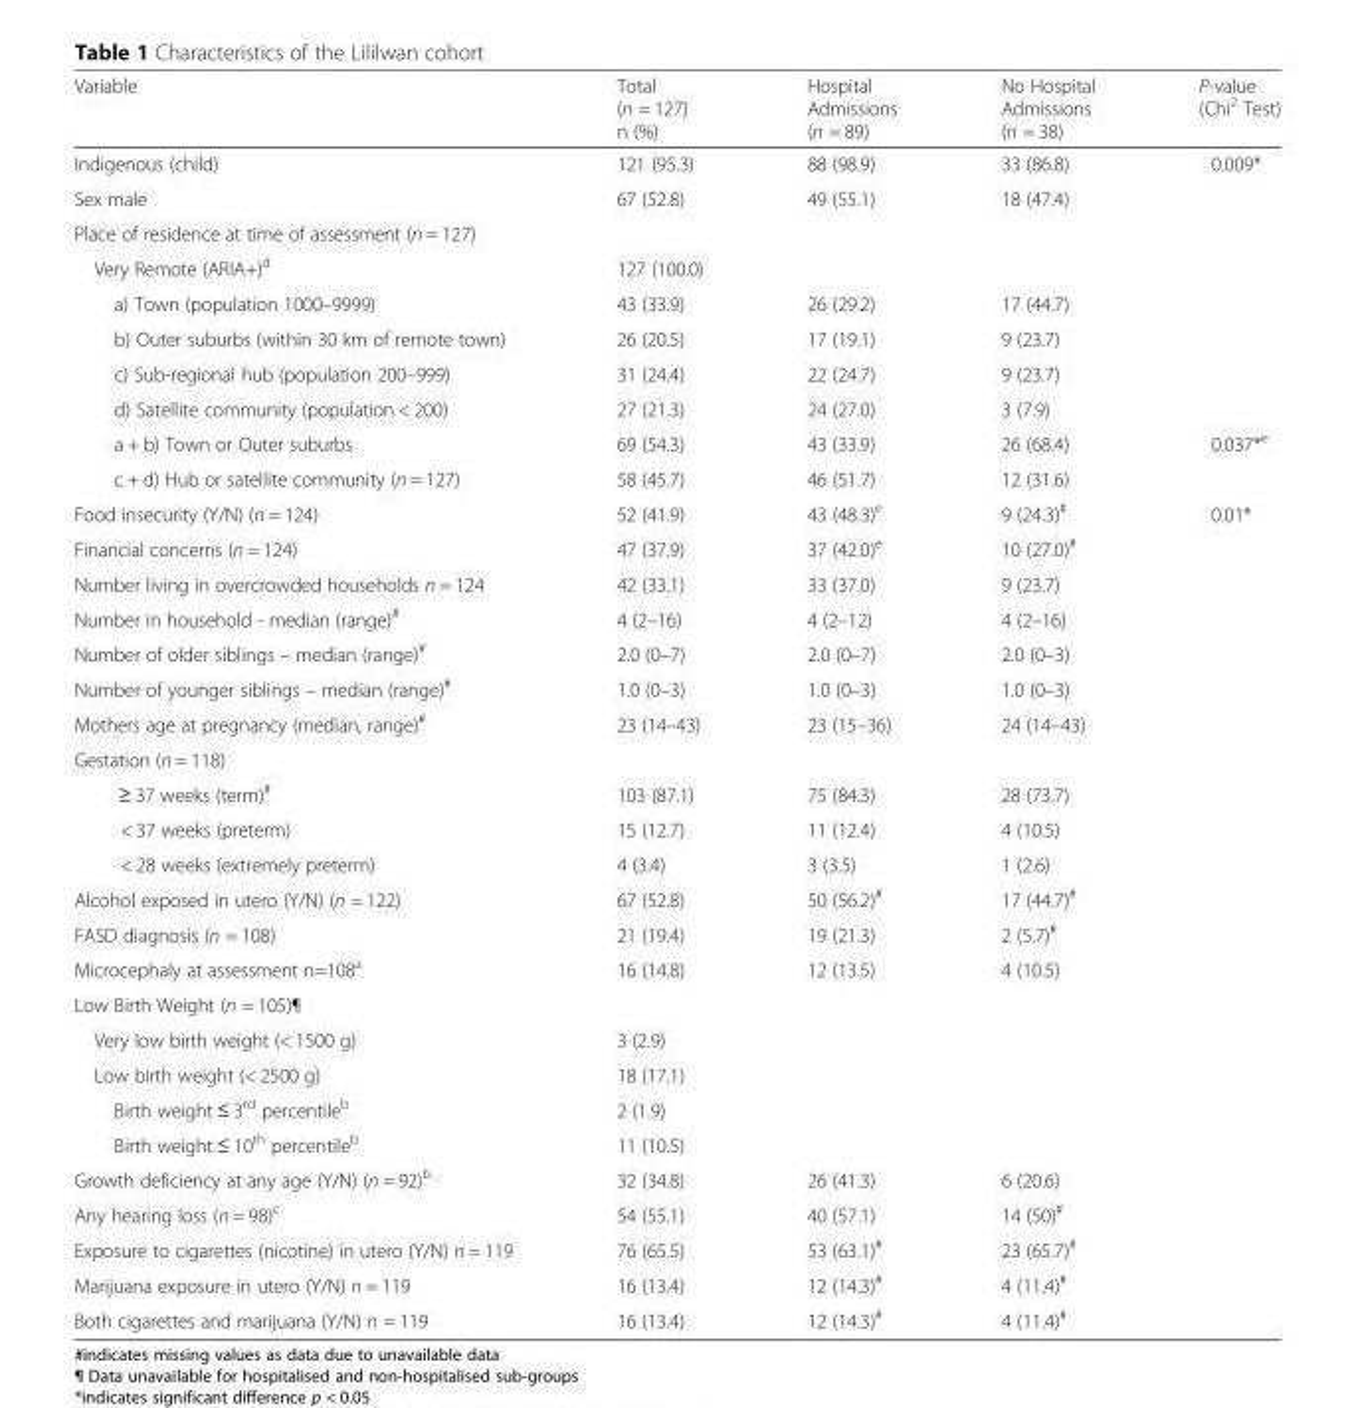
<table><thead><tr><td>Variable</td><td>Total (n = 127) n (%)</td><td>Hospital Admissions (n = 89)</td><td>No Hospital Admissions (n = 38)</td><td>P-value (Chi<sup>2</sup> Test)</td></tr></thead><tbody><tr><td>Indigenous (child)</td><td>121 (95.3)</td><td>88 (98.9)</td><td>33 (86.8)</td><td>0.009*</td></tr><tr><td>Sex male</td><td>67 (52.8)</td><td>49 (55.1)</td><td>18 (47.4)</td><td></td></tr><tr><td colspan="5">Place of residence at time of assessment (n = 127)</td></tr><tr><td>Very Remote (ARIA+)<sup>d</sup></td><td>127 (100.0)</td><td></td><td></td><td></td></tr><tr><td>a) Town (population 1000–9999)</td><td>43 (33.9)</td><td>26 (29.2)</td><td>17 (44.7)</td><td></td></tr><tr><td>b) Outer suburbs (within 30 km of remote town)</td><td>26 (20.5)</td><td>17 (19.1)</td><td>9 (23.7)</td><td></td></tr><tr><td>c) Sub-regional hub (population 200–999)</td><td>31 (24.4)</td><td>22 (24.7)</td><td>9 (23.7)</td><td></td></tr><tr><td>d) Satellite community (population &lt; 200)</td><td>27 (21.3)</td><td>24 (27.0)</td><td>3 (7.9)</td><td></td></tr><tr><td>a + b) Town or Outer suburbs</td><td>69 (54.3)</td><td>43 (33.9)</td><td>26 (68.4)</td><td rowspan="2">0.037*<sup>e</sup></td></tr><tr><td>c + d) Hub or satellite community (n = 127)</td><td>58 (45.7)</td><td>46 (51.7)</td><td>12 (31.6)</td></tr><tr><td>Food insecurity (Y/N) (n = 124)</td><td>52 (41.9)</td><td>43 (48.3)<sup>e</sup></td><td>9 (24.3)<sup>#</sup></td><td>0.01*</td></tr><tr><td>Financial concerns (n = 124)</td><td>47 (37.9)</td><td>37 (42.0)<sup>e</sup></td><td>10 (27.0)<sup>#</sup></td><td></td></tr><tr><td>Number living in overcrowded households n = 124</td><td>42 (33.1)</td><td>33 (37.0)</td><td>9 (23.7)</td><td></td></tr><tr><td>Number in household - median (range)<sup>#</sup></td><td>4 (2–16)</td><td>4 (2–12)</td><td>4 (2–16)</td><td></td></tr><tr><td>Number of older siblings – median (range)<sup>#</sup></td><td>2.0 (0–7)</td><td>2.0 (0–7)</td><td>2.0 (0–3)</td><td></td></tr><tr><td>Number of younger siblings – median (range)<sup>#</sup></td><td>1.0 (0–3)</td><td>1.0 (0–3)</td><td>1.0 (0–3)</td><td></td></tr><tr><td>Mothers age at pregnancy (median, range)<sup>#</sup></td><td>23 (14–43)</td><td>23 (15–36)</td><td>24 (14–43)</td><td></td></tr><tr><td colspan="5">Gestation (n = 118)</td></tr><tr><td>≥ 37 weeks (term)<sup>#</sup></td><td>103 (87.1)</td><td>75 (84.3)</td><td>28 (73.7)</td><td></td></tr><tr><td>&lt; 37 weeks (preterm)</td><td>15 (12.7)</td><td>11 (12.4)</td><td>4 (10.5)</td><td></td></tr><tr><td>&lt; 28 weeks (extremely preterm)</td><td>4 (3.4)</td><td>3 (3.5)</td><td>1 (2.6)</td><td></td></tr><tr><td>Alcohol exposed in utero (Y/N) (n = 122)</td><td>67 (52.8)</td><td>50 (56.2)<sup>#</sup></td><td>17 (44.7)<sup>#</sup></td><td></td></tr><tr><td>FASD diagnosis (n = 108)</td><td>21 (19.4)</td><td>19 (21.3)</td><td>2 (5.7)<sup>#</sup></td><td></td></tr><tr><td>Microcephaly at assessment n=108<sup>a</sup></td><td>16 (14.8)</td><td>12 (13.5)</td><td>4 (10.5)</td><td></td></tr><tr><td colspan="5">Low Birth Weight (n = 105)¶</td></tr><tr><td>Very low birth weight (&lt; 1500 g)</td><td>3 (2.9)</td><td></td><td></td><td></td></tr><tr><td>Low birth weight (&lt; 2500 g)</td><td>18 (17.1)</td><td></td><td></td><td></td></tr><tr><td>Birth weight ≤ 3<sup>rd</sup> percentile<sup>b</sup></td><td>2 (1.9)</td><td></td><td></td><td></td></tr><tr><td>Birth weight ≤ 10<sup>th</sup> percentile<sup>b</sup></td><td>11 (10.5)</td><td></td><td></td><td></td></tr><tr><td>Growth deficiency at any age (Y/N) (n = 92)<sup>b</sup></td><td>32 (34.8)</td><td>26 (41.3)</td><td>6 (20.6)</td><td></td></tr><tr><td>Any hearing loss (n = 98)<sup>c</sup></td><td>54 (55.1)</td><td>40 (57.1)</td><td>14 (50)<sup>#</sup></td><td></td></tr><tr><td>Exposure to cigarettes (nicotine) in utero (Y/N) n = 119</td><td>76 (65.5)</td><td>53 (63.1)<sup>#</sup></td><td>23 (65.7)<sup>#</sup></td><td></td></tr><tr><td>Marijuana exposure in utero (Y/N) n = 119</td><td>16 (13.4)</td><td>12 (14.3)<sup>#</sup></td><td>4 (11.4)<sup>#</sup></td><td></td></tr><tr><td>Both cigarettes and marijuana (Y/N) n = 119</td><td>16 (13.4)</td><td>12 (14.3)<sup>#</sup></td><td>4 (11.4)<sup>#</sup></td><td></td></tr></tbody></table>